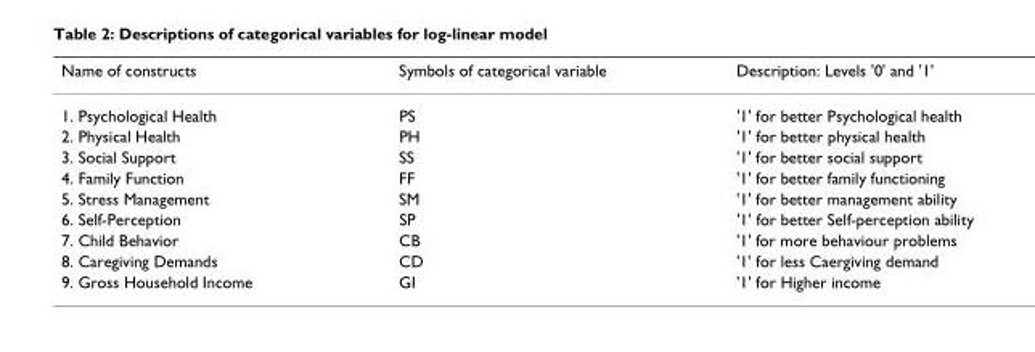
<table><thead><tr><td>Name of constructs</td><td>Symbols of categorical variable</td><td>Description: Levels &#x27;0&#x27; and &#x27;1&#x27;</td></tr></thead><tbody><tr><td>1. Psychological Health</td><td>PS</td><td>&#x27;1&#x27; for better Psychological health</td></tr><tr><td>2. Physical Health</td><td>PH</td><td>&#x27;1&#x27; for better physical health</td></tr><tr><td>3. Social Support</td><td>SS</td><td>&#x27;1&#x27; for better social support</td></tr><tr><td>4. Family Function</td><td>FF</td><td>&#x27;1&#x27; for better family functioning</td></tr><tr><td>5. Stress Management</td><td>SM</td><td>&#x27;1&#x27; for better management ability</td></tr><tr><td>6. Self-Perception</td><td>SP</td><td>&#x27;1&#x27; for better Self-perception ability</td></tr><tr><td>7. Child Behavior</td><td>CB</td><td>&#x27;1&#x27; for more behaviour problems</td></tr><tr><td>8. Caregiving Demands</td><td>CD</td><td>&#x27;1&#x27; for less Caergiving demand</td></tr><tr><td>9. Gross Household Income</td><td>GI</td><td>&#x27;1&#x27; for Higher income</td></tr></tbody></table>